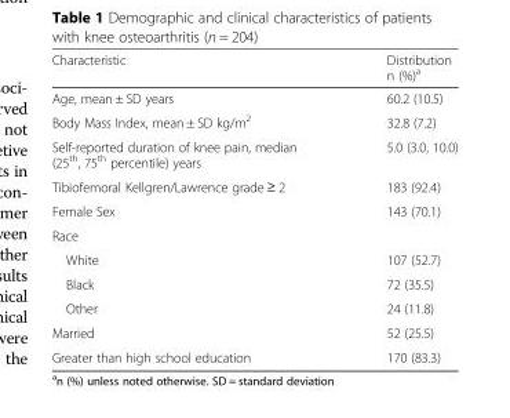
<table><thead><tr><td>Characteristic</td><td>Distribution n (%)<sup>a</sup></td></tr></thead><tbody><tr><td>Age, mean ± SD years</td><td>60.2 (10.5)</td></tr><tr><td>Body Mass Index, mean ± SD kg/m<sup>2</sup></td><td>32.8 (7.2)</td></tr><tr><td>Self-reported duration of knee pain, median (25<sup>th</sup>, 75<sup>th</sup> percentile) years</td><td>5.0 (3.0, 10.0)</td></tr><tr><td>Tibiofemoral Kellgren/Lawrence grade ≥ 2</td><td>183 (92.4)</td></tr><tr><td>Female Sex</td><td>143 (70.1)</td></tr><tr><td colspan="2">Race</td></tr><tr><td>White</td><td>107 (52.7)</td></tr><tr><td>Black</td><td>72 (35.5)</td></tr><tr><td>Other</td><td>24 (11.8)</td></tr><tr><td>Married</td><td>52 (25.5)</td></tr><tr><td>Greater than high school education</td><td>170 (83.3)</td></tr></tbody></table>